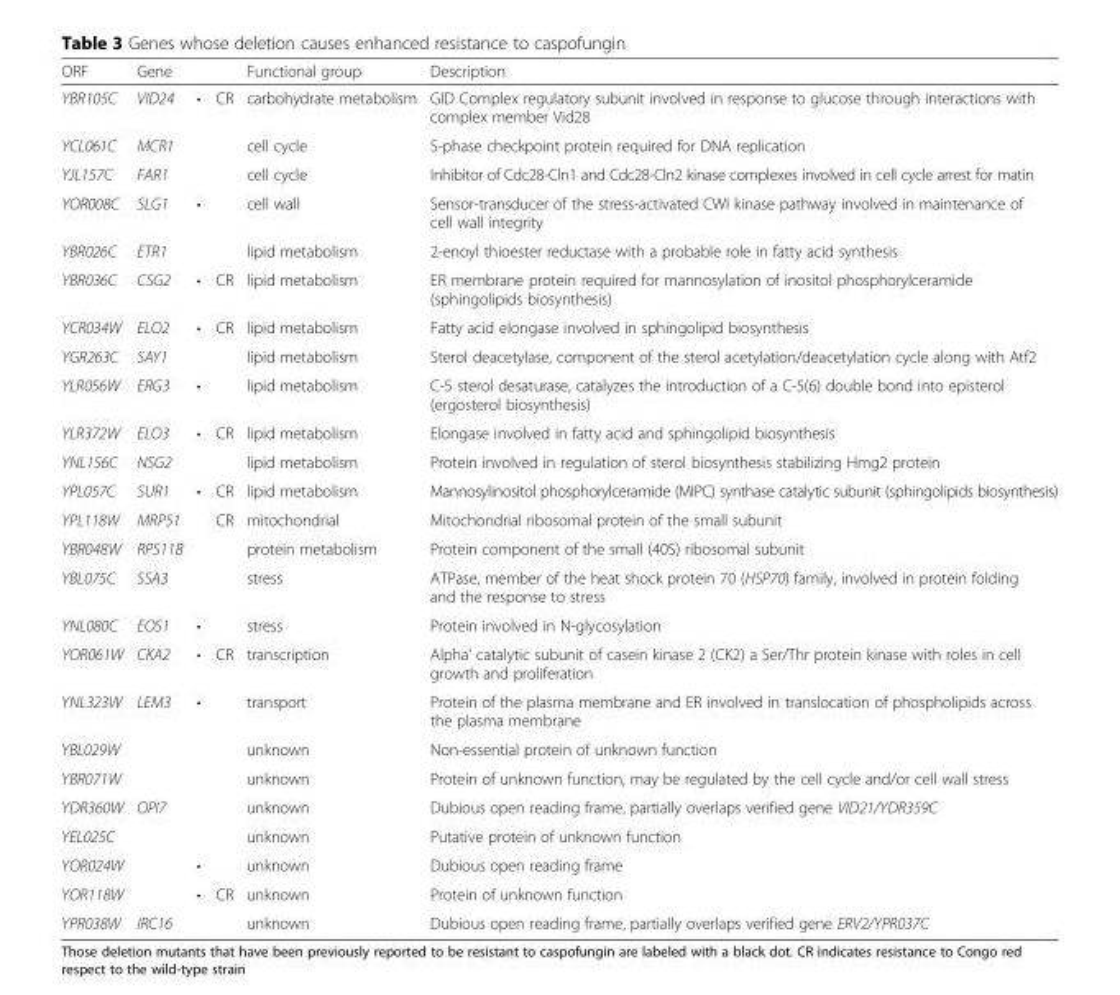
<table><thead><tr><td>ORF</td><td>Gene</td><td></td><td></td><td>Functional group</td><td>Description</td></tr></thead><tbody><tr><td>YBR105C</td><td>VID24</td><td>•</td><td>CR</td><td>carbohydrate metabolism</td><td>GID Complex regulatory subunit involved in response to glucose through interactions with complex member Vid28</td></tr><tr><td>YCL061C</td><td>MCR1</td><td></td><td></td><td>cell cycle</td><td>S-phase checkpoint protein required for DNA replication</td></tr><tr><td>YJL157C</td><td>FAR1</td><td></td><td></td><td>cell cycle</td><td>Inhibitor of Cdc28-Cln1 and Cdc28-Cln2 kinase complexes involved in cell cycle arrest for matin</td></tr><tr><td>YOR008C</td><td>SLG1</td><td>•</td><td></td><td>cell wall</td><td>Sensor-transducer of the stress-activated CWI kinase pathway involved in maintenance of cell wall integrity</td></tr><tr><td>YBR026C</td><td>ETR1</td><td></td><td></td><td>lipid metabolism</td><td>2-enoyl thioester reductase with a probable role in fatty acid synthesis</td></tr><tr><td>YBR036C</td><td>CSG2</td><td>•</td><td>CR</td><td>lipid metabolism</td><td>ER membrane protein required for mannosylation of inositol phosphorylceramide (sphingolipids biosynthesis)</td></tr><tr><td>YCR034W</td><td>ELO2</td><td>•</td><td>CR</td><td>lipid metabolism</td><td>Fatty acid elongase involved in sphingolipid biosynthesis</td></tr><tr><td>YGR263C</td><td>SAY1</td><td></td><td></td><td>lipid metabolism</td><td>Sterol deacetylase, component of the sterol acetylation/deacetylation cycle along with Atf2</td></tr><tr><td>YLR056W</td><td>ERG3</td><td>•</td><td></td><td>lipid metabolism</td><td>C-5 sterol desaturase, catalyzes the introduction of a C-5(6) double bond into episterol (ergosterol biosynthesis)</td></tr><tr><td>YLR372W</td><td>ELO3</td><td>•</td><td>CR</td><td>lipid metabolism</td><td>Elongase involved in fatty acid and sphingolipid biosynthesis</td></tr><tr><td>YNL156C</td><td>NSG2</td><td></td><td></td><td>lipid metabolism</td><td>Protein involved in regulation of sterol biosynthesis stabilizing Hmg2 protein</td></tr><tr><td>YPL057C</td><td>SUR1</td><td>•</td><td>CR</td><td>lipid metabolism</td><td>Mannosylinositol phosphorylceramide (MIPC) synthase catalytic subunit (sphingolipids biosynthesis)</td></tr><tr><td>YPL118W</td><td>MRP51</td><td></td><td>CR</td><td>mitochondrial</td><td>Mitochondrial ribosomal protein of the small subunit</td></tr><tr><td>YBR048W</td><td>RPS11B</td><td></td><td></td><td>protein metabolism</td><td>Protein component of the small (40S) ribosomal subunit</td></tr><tr><td>YBL075C</td><td>SSA3</td><td></td><td></td><td>stress</td><td>ATPase, member of the heat shock protein 70 (HSP70) family, involved in protein folding and the response to stress</td></tr><tr><td>YNL080C</td><td>EOS1</td><td>•</td><td></td><td>stress</td><td>Protein involved in N-glycosylation</td></tr><tr><td>YOR061W</td><td>CKA2</td><td>•</td><td>CR</td><td>transcription</td><td>Alpha&#x27; catalytic subunit of casein kinase 2 (CK2) a Ser/Thr protein kinase with roles in cell growth and proliferation</td></tr><tr><td>YNL323W</td><td>LEM3</td><td>•</td><td></td><td>transport</td><td>Protein of the plasma membrane and ER involved in translocation of phospholipids across the plasma membrane</td></tr><tr><td>YBL029W</td><td></td><td></td><td></td><td>unknown</td><td>Non-essential protein of unknown function</td></tr><tr><td>YBR071W</td><td></td><td></td><td></td><td>unknown</td><td>Protein of unknown function, may be regulated by the cell cycle and/or cell wall stress</td></tr><tr><td>YDR360W</td><td>OPI7</td><td></td><td></td><td>unknown</td><td>Dubious open reading frame, partially overlaps verified gene VID21/YDR359C</td></tr><tr><td>YEL025C</td><td></td><td></td><td></td><td>unknown</td><td>Putative protein of unknown function</td></tr><tr><td>YOR024W</td><td></td><td>•</td><td></td><td>unknown</td><td>Dubious open reading frame</td></tr><tr><td>YOR118W</td><td></td><td>•</td><td>CR</td><td>unknown</td><td>Protein of unknown function</td></tr><tr><td>YPR038W</td><td>IRC16</td><td></td><td></td><td>unknown</td><td>Dubious open reading frame, partially overlaps verified gene ERV2/YPR037C</td></tr></tbody></table>